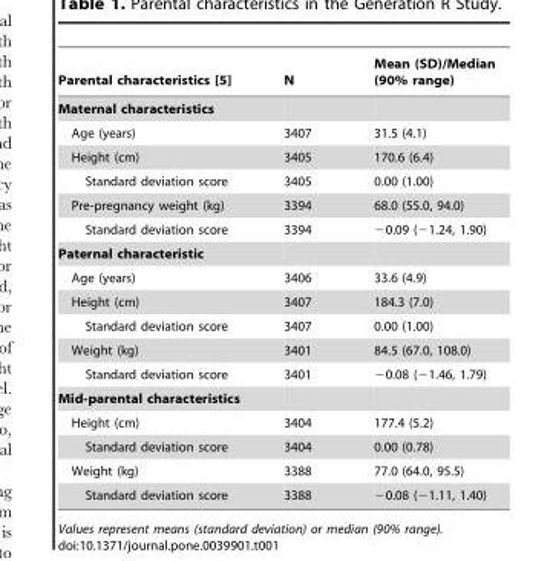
<table><thead><tr><td>Parental characteristics [5]</td><td>N</td><td>Mean (SD)/Median (90% range)</td></tr></thead><tbody><tr><td colspan="3">Maternal characteristics</td></tr><tr><td>Age (years)</td><td>3407</td><td>31.5 (4.1)</td></tr><tr><td>Height (cm)</td><td>3405</td><td>170.6 (6.4)</td></tr><tr><td>Standard deviation score</td><td>3405</td><td>0.00 (1.00)</td></tr><tr><td>Pre-pregnancy weight (kg)</td><td>3394</td><td>68.0 (55.0, 94.0)</td></tr><tr><td>Standard deviation score</td><td>3394</td><td>−0.09 (−1.24, 1.90)</td></tr><tr><td colspan="3">Paternal characteristic</td></tr><tr><td>Age (years)</td><td>3406</td><td>33.6 (4.9)</td></tr><tr><td>Height (cm)</td><td>3407</td><td>184.3 (7.0)</td></tr><tr><td>Standard deviation score</td><td>3407</td><td>0.00 (1.00)</td></tr><tr><td>Weight (kg)</td><td>3401</td><td>84.5 (67.0, 108.0)</td></tr><tr><td>Standard deviation score</td><td>3401</td><td>−0.08 (−1.46, 1.79)</td></tr><tr><td colspan="3">Mid-parental characteristics</td></tr><tr><td>Height (cm)</td><td>3404</td><td>177.4 (5.2)</td></tr><tr><td>Standard deviation score</td><td>3404</td><td>0.00 (0.78)</td></tr><tr><td>Weight (kg)</td><td>3388</td><td>77.0 (64.0, 95.5)</td></tr><tr><td>Standard deviation score</td><td>3388</td><td>−0.08 (−1.11, 1.40)</td></tr></tbody></table>